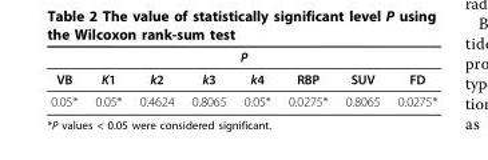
<table><thead><tr><td colspan="8">P</td></tr><tr><td>VB</td><td>K1</td><td>k2</td><td>k3</td><td>k4</td><td>RBP</td><td>SUV</td><td>FD</td></tr></thead><tbody><tr><td>0.05*</td><td>0.05*</td><td>0.4624</td><td>0.8065</td><td>0.05*</td><td>0.0275*</td><td>0.8065</td><td>0.0275*</td></tr></tbody></table>